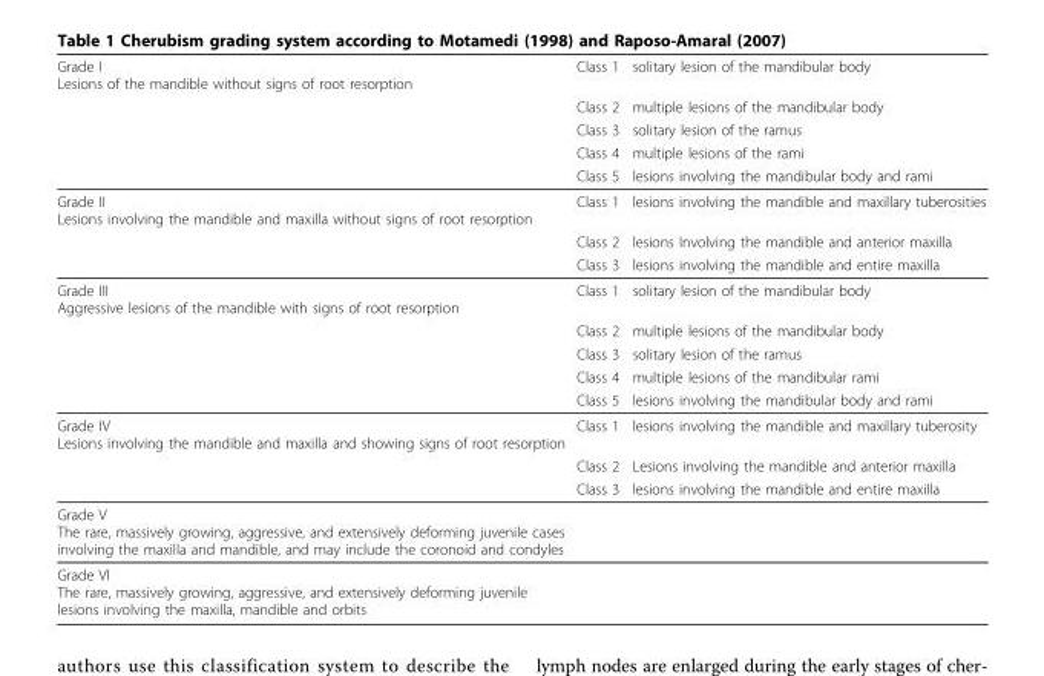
<table><thead><tr><td rowspan="5">Grade I Lesions of the mandible without signs of root resorption</td><td rowspan="5">Class 1 Class 2 Class 3 Class 4 Class 5</td><td rowspan="5">solitary lesion of the mandibular body multiple lesions of the mandibular body solitary lesion of the ramus multiple lesions of the rami lesions involving the mandibular body and rami</td></tr><tr></tr><tr></tr><tr></tr><tr></tr></thead><tbody><tr><td rowspan="3">Grade II Lesions involving the mandible and maxilla without signs of root resorption</td><td>Class 1</td><td>lesions involving the mandible and maxillary tuberosities</td></tr><tr><td>Class 2</td><td>lesions Involving the mandible and anterior maxilla</td></tr><tr><td>Class 3</td><td>lesions involving the mandible and entire maxilla</td></tr><tr><td rowspan="5">Grade III Aggressive lesions of the mandible with signs of root resorption</td><td>Class 1</td><td>solitary lesion of the mandibular body</td></tr><tr><td>Class 2</td><td>multiple lesions of the mandibular body</td></tr><tr><td>Class 3</td><td>solitary lesion of the ramus</td></tr><tr><td>Class 4</td><td>multiple lesions of the mandibular rami</td></tr><tr><td>Class 5</td><td>lesions involving the mandibular body and rami</td></tr><tr><td rowspan="3">Grade IV Lesions involving the mandible and maxilla and showing signs of root resorption</td><td>Class 1</td><td>lesions involving the mandible and maxillary tuberosity</td></tr><tr><td>Class 2</td><td>Lesions involving the mandible and anterior maxilla</td></tr><tr><td>Class 3</td><td>lesions involving the mandible and entire maxilla</td></tr><tr><td colspan="3">Grade V The rare, massively growing, aggressive, and extensively deforming juvenile cases involving the maxilla and mandible, and may include the coronoid and condyles</td></tr><tr><td>Grade VI The rare, massively growing, aggressive, and extensively deforming juvenile lesions involving the maxilla, mandible and orbits</td><td></td><td></td></tr></tbody></table>